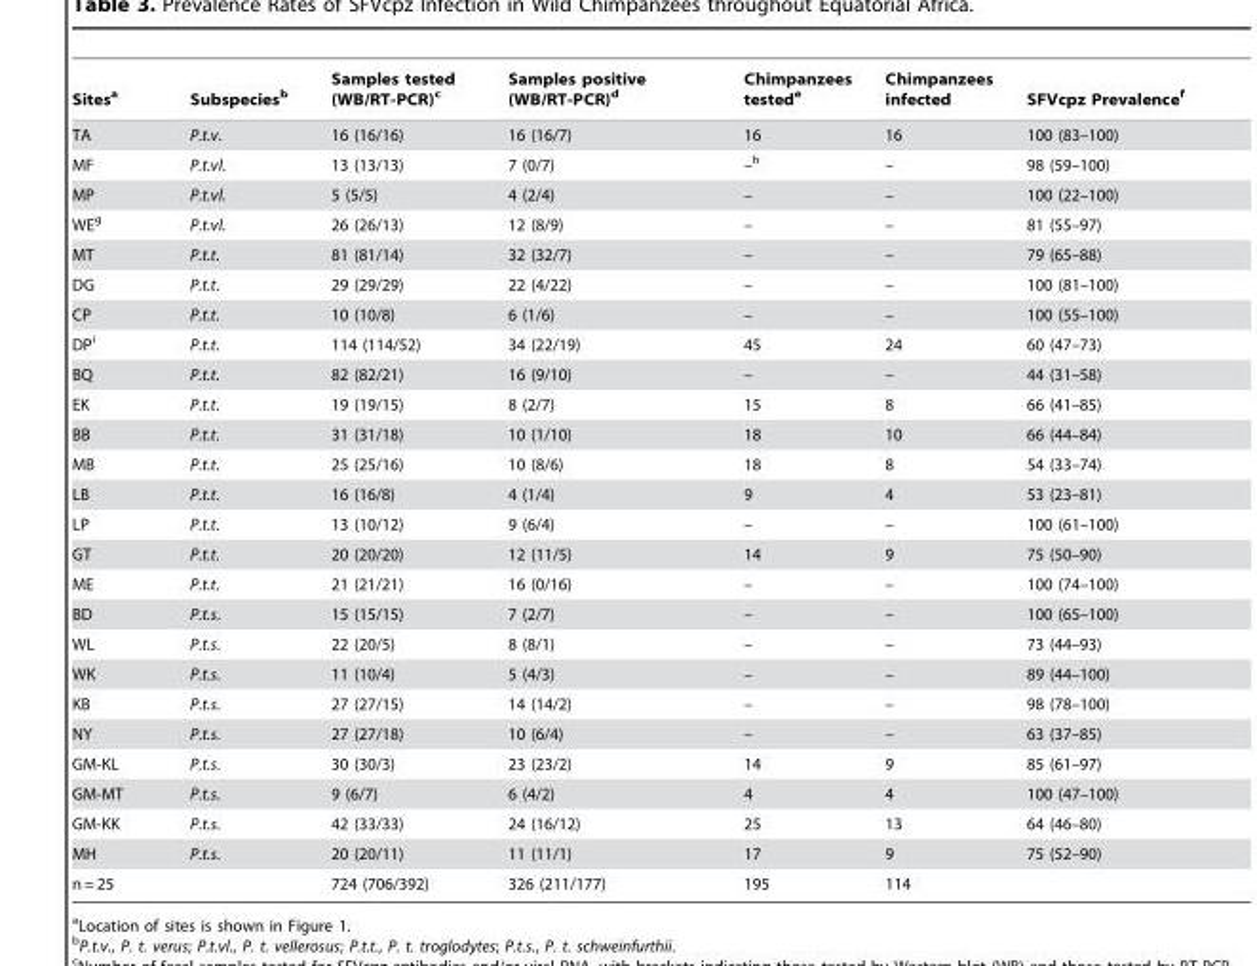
<table><thead><tr><td>Sites<sup>a</sup></td><td>Subspecies<sup>b</sup></td><td>Samples tested (WB/RT-PCR)<sup>c</sup></td><td>Samples positive (WB/RT-PCR)<sup>d</sup></td><td>Chimpanzees tested<sup>e</sup></td><td>Chimpanzees infected</td><td>SFVcpz Prevalence<sup>f</sup></td></tr></thead><tbody><tr><td>TA</td><td>P.t.v.</td><td>16 (16/16)</td><td>16 (16/7)</td><td>16</td><td>16</td><td>100 (83–100)</td></tr><tr><td>MF</td><td>P.t.vl.</td><td>13 (13/13)</td><td>7 (0/7)</td><td>–h</td><td>–</td><td>98 (59–100)</td></tr><tr><td>MP</td><td>P.t.vl.</td><td>5 (5/5)</td><td>4 (2/4)</td><td>–</td><td>–</td><td>100 (22–100)</td></tr><tr><td>WE<sup>g</sup></td><td>P.t.vl.</td><td>26 (26/13)</td><td>12 (8/9)</td><td>–</td><td>–</td><td>81 (55–97)</td></tr><tr><td>MT</td><td>P.t.t.</td><td>81 (81/14)</td><td>32 (32/7)</td><td>–</td><td>–</td><td>79 (65–88)</td></tr><tr><td>DG</td><td>P.t.t.</td><td>29 (29/29)</td><td>22 (4/22)</td><td>–</td><td>–</td><td>100 (81–100)</td></tr><tr><td>CP</td><td>P.t.t.</td><td>10 (10/8)</td><td>6 (1/6)</td><td>–</td><td>–</td><td>100 (55–100)</td></tr><tr><td>DP<sup>i</sup></td><td>P.t.t.</td><td>114 (114/52)</td><td>34 (22/19)</td><td>45</td><td>24</td><td>60 (47–73)</td></tr><tr><td>BQ</td><td>P.t.t.</td><td>82 (82/21)</td><td>16 (9/10)</td><td>–</td><td>–</td><td>44 (31–58)</td></tr><tr><td>EK</td><td>P.t.t.</td><td>19 (19/15)</td><td>8 (2/7)</td><td>15</td><td>8</td><td>66 (41–85)</td></tr><tr><td>BB</td><td>P.t.t.</td><td>31 (31/18)</td><td>10 (1/10)</td><td>18</td><td>10</td><td>66 (44–84)</td></tr><tr><td>MB</td><td>P.t.t.</td><td>25 (25/16)</td><td>10 (8/6)</td><td>18</td><td>8</td><td>54 (33–74)</td></tr><tr><td>LB</td><td>P.t.t.</td><td>16 (16/8)</td><td>4 (1/4)</td><td>9</td><td>4</td><td>53 (23–81)</td></tr><tr><td>LP</td><td>P.t.t.</td><td>13 (10/12)</td><td>9 (6/4)</td><td>–</td><td>–</td><td>100 (61–100)</td></tr><tr><td>GT</td><td>P.t.t.</td><td>20 (20/20)</td><td>12 (11/5)</td><td>14</td><td>9</td><td>75 (50–90)</td></tr><tr><td>ME</td><td>P.t.t.</td><td>21 (21/21)</td><td>16 (0/16)</td><td>–</td><td>–</td><td>100 (74–100)</td></tr><tr><td>BD</td><td>P.t.s.</td><td>15 (15/15)</td><td>7 (2/7)</td><td>–</td><td>–</td><td>100 (65–100)</td></tr><tr><td>WL</td><td>P.t.s.</td><td>22 (20/5)</td><td>8 (8/1)</td><td>–</td><td>–</td><td>73 (44–93)</td></tr><tr><td>WK</td><td>P.t.s.</td><td>11 (10/4)</td><td>5 (4/3)</td><td>–</td><td>–</td><td>89 (44–100)</td></tr><tr><td>KB</td><td>P.t.s.</td><td>27 (27/15)</td><td>14 (14/2)</td><td>–</td><td>–</td><td>98 (78–100)</td></tr><tr><td>NY</td><td>P.t.s.</td><td>27 (27/18)</td><td>10 (6/4)</td><td>–</td><td>–</td><td>63 (37–85)</td></tr><tr><td>GM-KL</td><td>P.t.s.</td><td>30 (30/3)</td><td>23 (23/2)</td><td>14</td><td>9</td><td>85 (61–97)</td></tr><tr><td>GM-MT</td><td>P.t.s.</td><td>9 (6/7)</td><td>6 (4/2)</td><td>4</td><td>4</td><td>100 (47–100)</td></tr><tr><td>GM-KK</td><td>P.t.s.</td><td>42 (33/33)</td><td>24 (16/12)</td><td>25</td><td>13</td><td>64 (46–80)</td></tr><tr><td>MH</td><td>P.t.s.</td><td>20 (20/11)</td><td>11 (11/1)</td><td>17</td><td>9</td><td>75 (52–90)</td></tr><tr><td>n = 25</td><td></td><td>724 (706/392)</td><td>326 (211/177)</td><td>195</td><td>114</td><td></td></tr></tbody></table>